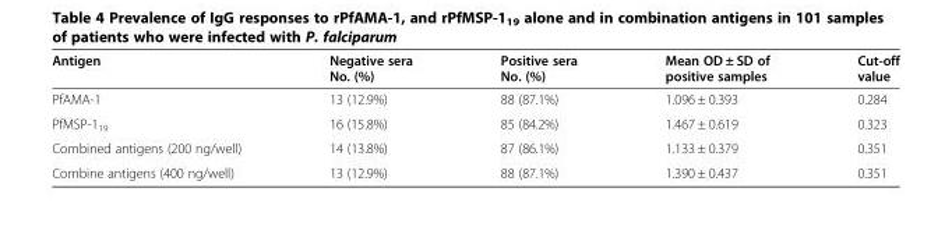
<table><thead><tr><td>Antigen</td><td>Negative sera No. (%)</td><td>Positive sera No. (%)</td><td>Mean OD ± SD of positive samples</td><td>Cut-off value</td></tr></thead><tbody><tr><td>PfAMA-1</td><td>13 (12.9%)</td><td>88 (87.1%)</td><td>1.096 ± 0.393</td><td>0.284</td></tr><tr><td>PfMSP-1<sub>19</sub></td><td>16 (15.8%)</td><td>85 (84.2%)</td><td>1.467 ± 0.619</td><td>0.323</td></tr><tr><td>Combined antigens (200 ng/well)</td><td>14 (13.8%)</td><td>87 (86.1%)</td><td>1.133 ± 0.379</td><td>0.351</td></tr><tr><td>Combine antigens (400 ng/well)</td><td>13 (12.9%)</td><td>88 (87.1%)</td><td>1.390 ± 0.437</td><td>0.351</td></tr></tbody></table>